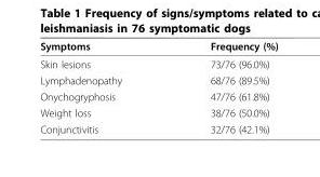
<table><thead><tr><td>Symptoms</td><td>Frequency (%)</td></tr></thead><tbody><tr><td>Skin lesions</td><td>73/76 (96.0%)</td></tr><tr><td>Lymphadenopathy</td><td>68/76 (89.5%)</td></tr><tr><td>Onychogryphosis</td><td>47/76 (61.8%)</td></tr><tr><td>Weight loss</td><td>38/76 (50.0%)</td></tr><tr><td>Conjunctivitis</td><td>32/76 (42.1%)</td></tr></tbody></table>